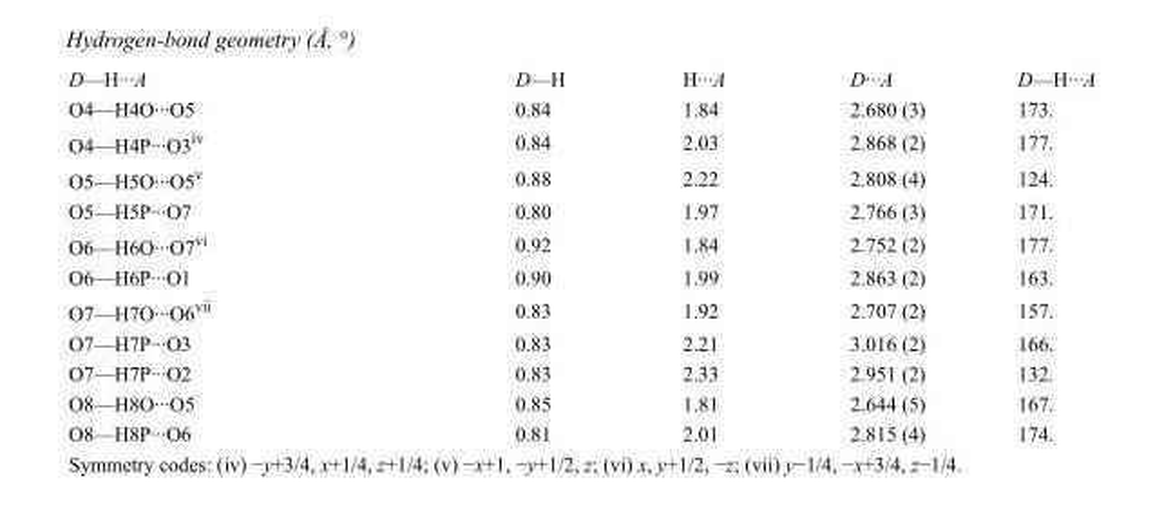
<table><tbody><tr><td>D—H···A</td><td>D—H</td><td>H···A</td><td>D···A</td><td>D—H···A</td></tr><tr><td>O4—H4O···O5</td><td>0.84</td><td>1.84</td><td>2.680 (3)</td><td>173.</td></tr><tr><td>O4—H4P···O3<sup>iv</sup></td><td>0.84</td><td>2.03</td><td>2.868 (2)</td><td>177.</td></tr><tr><td>O5—H5O···O5<sup>v</sup></td><td>0.88</td><td>2.22</td><td>2.808 (4)</td><td>124.</td></tr><tr><td>O5—H5P···O7</td><td>0.80</td><td>1.97</td><td>2.766 (3)</td><td>171.</td></tr><tr><td>O6—H6O···O7<sup>vi</sup></td><td>0.92</td><td>1.84</td><td>2.752 (2)</td><td>177.</td></tr><tr><td>O6—H6P···O1</td><td>0.90</td><td>1.99</td><td>2.863 (2)</td><td>163.</td></tr><tr><td>O7—H7O···O6<sup>vii</sup></td><td>0.83</td><td>1.92</td><td>2.707 (2)</td><td>157.</td></tr><tr><td>O7—H7P···O3</td><td>0.83</td><td>2.21</td><td>3.016 (2)</td><td>166.</td></tr><tr><td>O7—H7P···O2</td><td>0.83</td><td>2.33</td><td>2.951 (2)</td><td>132.</td></tr><tr><td>O8—H8O···O5</td><td>0.85</td><td>1.81</td><td>2.644 (5)</td><td>167.</td></tr><tr><td>O8—H8P···O6</td><td>0.81</td><td>2.01</td><td>2.815 (4)</td><td>174.</td></tr></tbody></table>